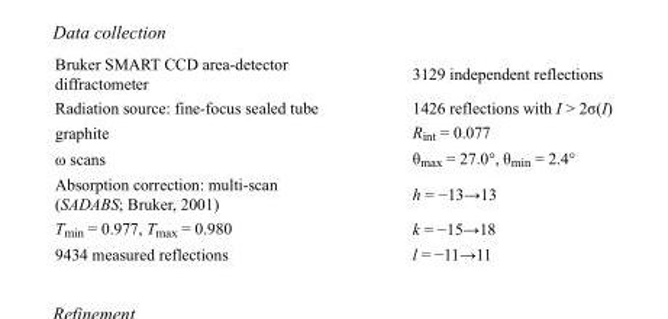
<table><tbody><tr><td>Bruker SMART CCD area-detector diffractometer</td><td>3129 independent reflections</td></tr><tr><td>Radiation source: fine-focus sealed tube</td><td>1426 reflections with I &gt; 2σ(I)</td></tr><tr><td>graphite</td><td>R<sub>int</sub> = 0.077</td></tr><tr><td>ω scans</td><td>θ<sub>max</sub> = 27.0°, θ<sub>min</sub> = 2.4°</td></tr><tr><td>Absorption correction: multi-scan (SADABS; Bruker, 2001)</td><td>h = −13→13</td></tr><tr><td>T<sub>min</sub> = 0.977, T<sub>max</sub> = 0.980</td><td>k = −15→18</td></tr><tr><td>9434 measured reflections</td><td>l = −11→11</td></tr></tbody></table>